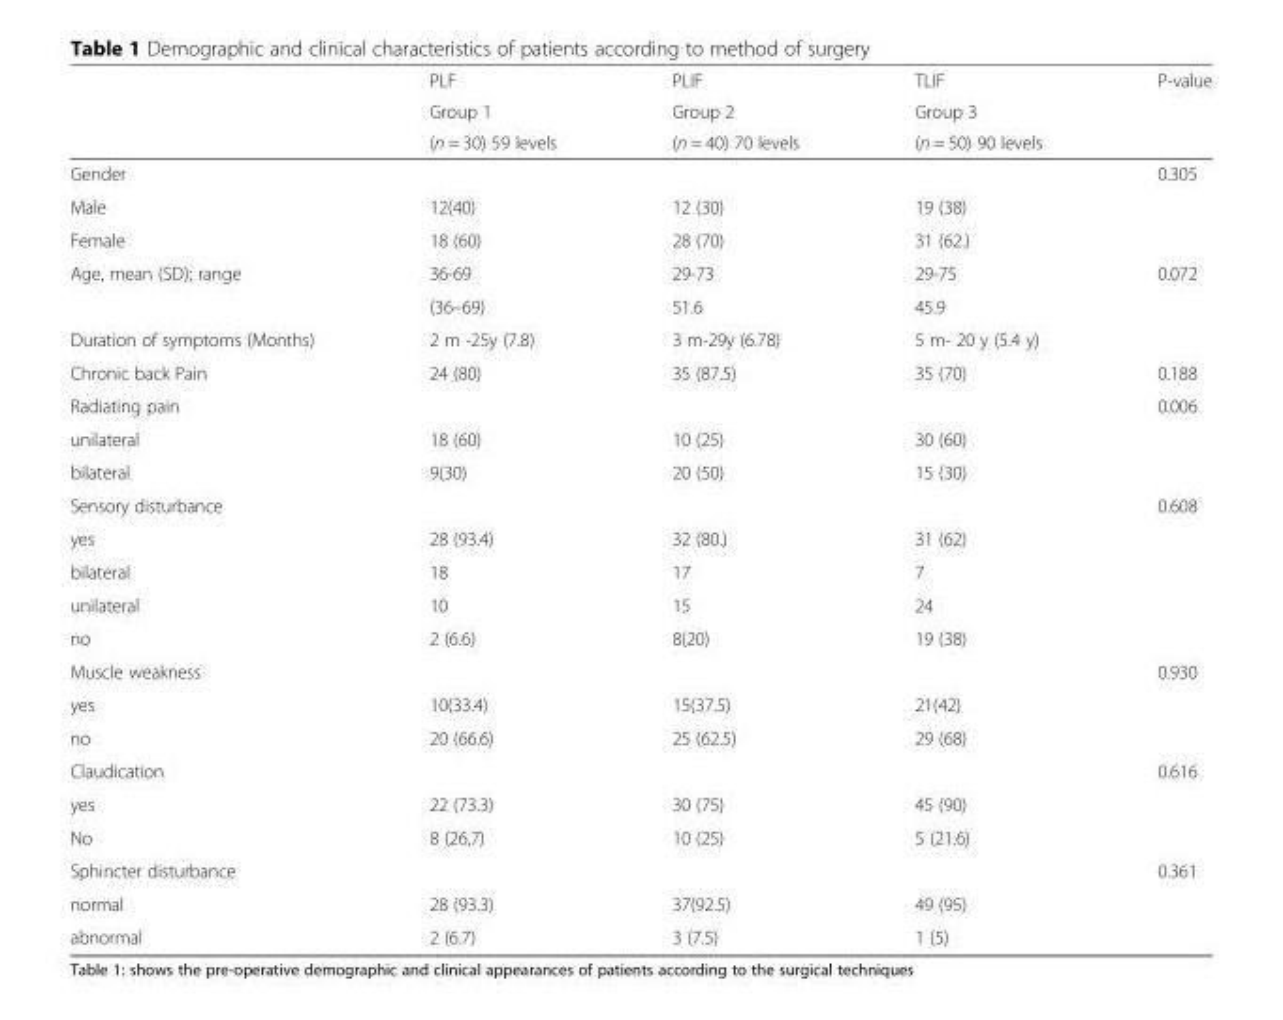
<table><thead><tr><td rowspan="3"></td><td rowspan="3">PLF Group 1 (n = 30) 59 levels</td><td rowspan="3">PLIF Group 2 (n = 40) 70 levels</td><td rowspan="3">TLIF Group 3 (n = 50) 90 levels</td><td rowspan="3">P-value</td></tr><tr></tr><tr></tr></thead><tbody><tr><td>Gender</td><td></td><td></td><td></td><td>0.305</td></tr><tr><td>Male</td><td>12(40)</td><td>12 (30)</td><td>19 (38)</td><td></td></tr><tr><td>Female</td><td>18 (60)</td><td>28 (70)</td><td>31 (62.)</td><td></td></tr><tr><td rowspan="2">Age, mean (SD); range</td><td>36-69</td><td>29-73</td><td>29-75</td><td>0.072</td></tr><tr><td>(36–69)</td><td>51.6</td><td>45.9</td><td></td></tr><tr><td>Duration of symptoms (Months)</td><td>2 m -25y (7.8)</td><td>3 m-29y (6.78)</td><td>5 m- 20 y (5.4 y)</td><td></td></tr><tr><td>Chronic back Pain</td><td>24 (80)</td><td>35 (87.5)</td><td>35 (70)</td><td>0.188</td></tr><tr><td>Radiating pain</td><td></td><td></td><td></td><td>0.006</td></tr><tr><td>unilateral</td><td>18 (60)</td><td>10 (25)</td><td>30 (60)</td><td></td></tr><tr><td>bilateral</td><td>9(30)</td><td>20 (50)</td><td>15 (30)</td><td></td></tr><tr><td>Sensory disturbance</td><td></td><td></td><td></td><td>0.608</td></tr><tr><td>yes</td><td>28 (93.4)</td><td>32 (80.)</td><td>31 (62)</td><td></td></tr><tr><td>bilateral</td><td>18</td><td>17</td><td>7</td><td></td></tr><tr><td>unilateral</td><td>10</td><td>15</td><td>24</td><td></td></tr><tr><td>no</td><td>2 (6.6)</td><td>8(20)</td><td>19 (38)</td><td></td></tr><tr><td>Muscle weakness</td><td></td><td></td><td></td><td>0.930</td></tr><tr><td>yes</td><td>10(33.4)</td><td>15(37.5)</td><td>21(42)</td><td></td></tr><tr><td>no</td><td>20 (66.6)</td><td>25 (62.5)</td><td>29 (68)</td><td></td></tr><tr><td>Claudication</td><td></td><td></td><td></td><td>0.616</td></tr><tr><td>yes</td><td>22 (73.3)</td><td>30 (75)</td><td>45 (90)</td><td></td></tr><tr><td>No</td><td>8 (26,7)</td><td>10 (25)</td><td>5 (21.6)</td><td></td></tr><tr><td>Sphincter disturbance</td><td></td><td></td><td></td><td>0.361</td></tr><tr><td>normal</td><td>28 (93.3)</td><td>37(92.5)</td><td>49 (95)</td><td></td></tr><tr><td>abnormal</td><td>2 (6.7)</td><td>3 (7.5)</td><td>1 (5)</td><td></td></tr></tbody></table>